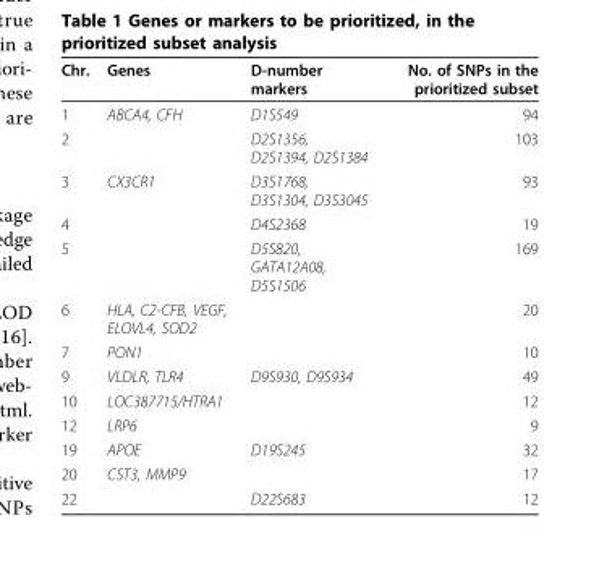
<table><thead><tr><td>Chr.</td><td>Genes</td><td>D-number markers</td><td>No. of SNPs in the prioritized subset</td></tr></thead><tbody><tr><td>1</td><td>ABCA4, CFH</td><td>D1S549</td><td>94</td></tr><tr><td>2</td><td></td><td>D2S1356, D2S1394, D2S1384</td><td>103</td></tr><tr><td>3</td><td>CX3CR1</td><td>D3S1768, D3S1304, D3S3045</td><td>93</td></tr><tr><td>4</td><td></td><td>D4S2368</td><td>19</td></tr><tr><td>5</td><td></td><td>D5S820, GATA12A08, D5S1506</td><td>169</td></tr><tr><td>6</td><td>HLA, C2-CFB, VEGF, ELOVL4, SOD2</td><td></td><td>20</td></tr><tr><td>7</td><td>PON1</td><td></td><td>10</td></tr><tr><td>9</td><td>VLDLR, TLR4</td><td>D9S930, D9S934</td><td>49</td></tr><tr><td>10</td><td>LOC387715/HTRA1</td><td></td><td>12</td></tr><tr><td>12</td><td>LRP6</td><td></td><td>9</td></tr><tr><td>19</td><td>APOE</td><td>D19S245</td><td>32</td></tr><tr><td>20</td><td>CST3, MMP9</td><td></td><td>17</td></tr><tr><td>22</td><td></td><td>D22S683</td><td>12</td></tr></tbody></table>